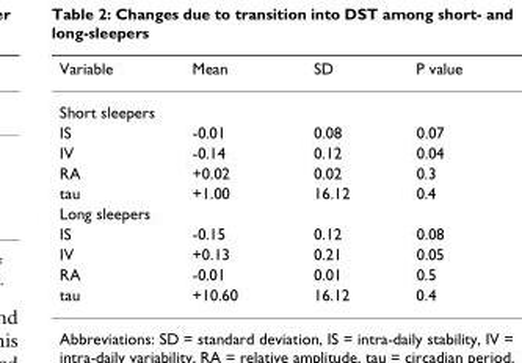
<table><thead><tr><td>Variable</td><td>Mean</td><td>SD</td><td>P value</td></tr></thead><tbody><tr><td colspan="4">Short sleepers</td></tr><tr><td>IS</td><td>-0.01</td><td>0.08</td><td>0.07</td></tr><tr><td>IV</td><td>-0.14</td><td>0.12</td><td>0.04</td></tr><tr><td>RA</td><td>+0.02</td><td>0.02</td><td>0.3</td></tr><tr><td>tau</td><td>+1.00</td><td>16.12</td><td>0.4</td></tr><tr><td colspan="4">Long sleepers</td></tr><tr><td>IS</td><td>-0.15</td><td>0.12</td><td>0.08</td></tr><tr><td>IV</td><td>+0.13</td><td>0.21</td><td>0.05</td></tr><tr><td>RA</td><td>-0.01</td><td>0.01</td><td>0.5</td></tr><tr><td>tau</td><td>+10.60</td><td>16.12</td><td>0.4</td></tr></tbody></table>